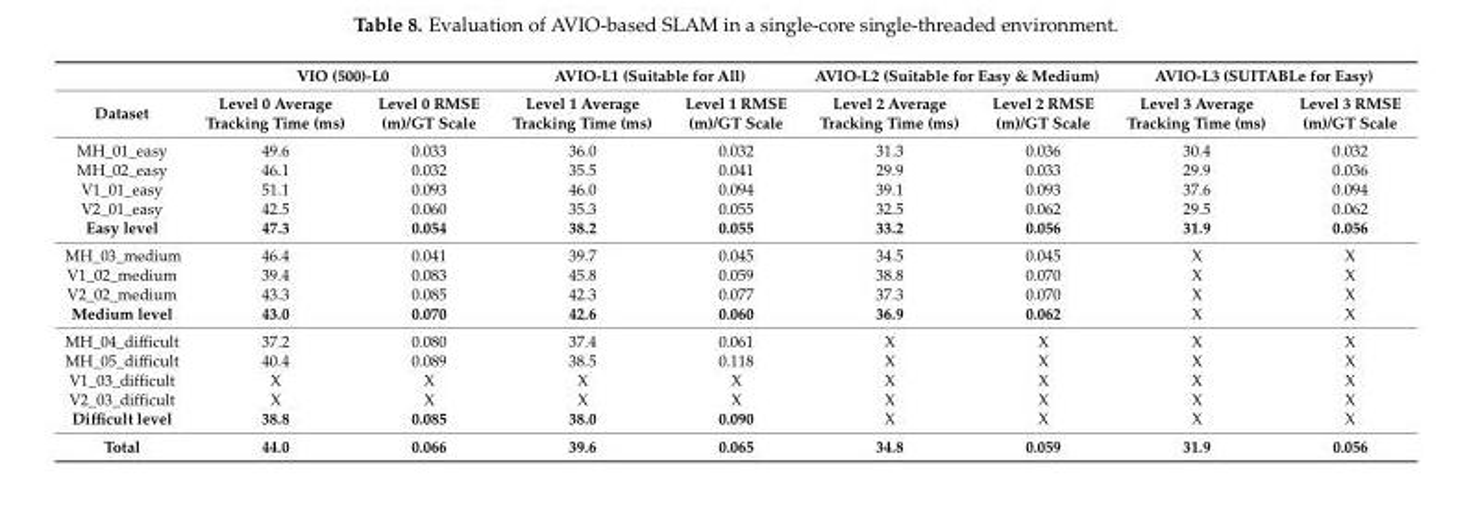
<table><thead><tr><td rowspan="2">Dataset</td><td colspan="2">VIO (500)-L0</td><td colspan="2">AVIO-L1 (Suitable for All)</td><td colspan="2">AVIO-L2 (Suitable for Easy &amp; Medium)</td><td colspan="2">AVIO-L3 (SUITABLe for Easy)</td></tr><tr><td>Level 0 Average Tracking Time (ms)</td><td>Level 0 RMSE (m)/GT Scale</td><td>Level 1 Average Tracking Time (ms)</td><td>Level 1 RMSE (m)/GT Scale</td><td>Level 2 Average Tracking Time (ms)</td><td>Level 2 RMSE (m)/GT Scale</td><td>Level 3 Average Tracking Time (ms)</td><td>Level 3 RMSE (m)/GT Scale</td></tr></thead><tbody><tr><td>MH_01_easy</td><td>49.6</td><td>0.033</td><td>36.0</td><td>0.032</td><td>31.3</td><td>0.036</td><td>30.4</td><td>0.032</td></tr><tr><td>MH_02_easy</td><td>46.1</td><td>0.032</td><td>35.5</td><td>0.041</td><td>29.9</td><td>0.033</td><td>29.9</td><td>0.036</td></tr><tr><td>V1_01_easy</td><td>51.1</td><td>0.093</td><td>46.0</td><td>0.094</td><td>39.1</td><td>0.093</td><td>37.6</td><td>0.094</td></tr><tr><td>V2_01_easy</td><td>42.5</td><td>0.060</td><td>35.3</td><td>0.055</td><td>32.5</td><td>0.062</td><td>29.5</td><td>0.062</td></tr><tr><td>Easy level</td><td>47.3</td><td>0.054</td><td>38.2</td><td>0.055</td><td>33.2</td><td>0.056</td><td>31.9</td><td>0.056</td></tr><tr><td>MH_03_medium</td><td>46.4</td><td>0.041</td><td>39.7</td><td>0.045</td><td>34.5</td><td>0.045</td><td>X</td><td>X</td></tr><tr><td>V1_02_medium</td><td>39.4</td><td>0.083</td><td>45.8</td><td>0.059</td><td>38.8</td><td>0.070</td><td>X</td><td>X</td></tr><tr><td>V2_02_medium</td><td>43.3</td><td>0.085</td><td>42.3</td><td>0.077</td><td>37.3</td><td>0.070</td><td>X</td><td>X</td></tr><tr><td>Medium level</td><td>43.0</td><td>0.070</td><td>42.6</td><td>0.060</td><td>36.9</td><td>0.062</td><td>X</td><td>X</td></tr><tr><td>MH_04_difficult</td><td>37.2</td><td>0.080</td><td>37.4</td><td>0.061</td><td>X</td><td>X</td><td>X</td><td>X</td></tr><tr><td>MH_05_difficult</td><td>40.4</td><td>0.089</td><td>38.5</td><td>0.118</td><td>X</td><td>X</td><td>X</td><td>X</td></tr><tr><td>V1_03_difficult</td><td>X</td><td>X</td><td>X</td><td>X</td><td>X</td><td>X</td><td>X</td><td>X</td></tr><tr><td>V2_03_difficult</td><td>X</td><td>X</td><td>X</td><td>X</td><td>X</td><td>X</td><td>X</td><td>X</td></tr><tr><td>Difficult level</td><td>38.8</td><td>0.085</td><td>38.0</td><td>0.090</td><td>X</td><td>X</td><td>X</td><td>X</td></tr><tr><td>Total</td><td>44.0</td><td>0.066</td><td>39.6</td><td>0.065</td><td>34.8</td><td>0.059</td><td>31.9</td><td>0.056</td></tr></tbody></table>